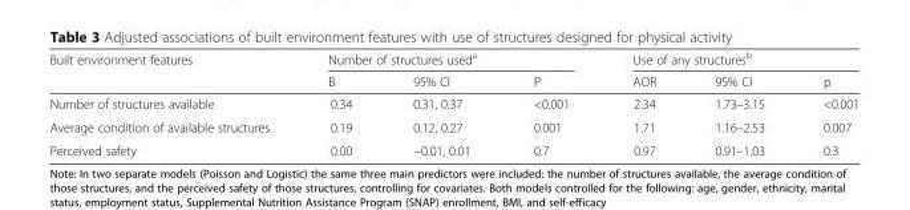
<table><thead><tr><td rowspan="2">Built environment features</td><td colspan="3">Number of structures used<sup>a</sup></td><td colspan="3">Use of any structures<sup>b</sup></td></tr><tr><td>B</td><td>95% CI</td><td>P</td><td>AOR</td><td>95% CI</td><td>p</td></tr></thead><tbody><tr><td>Number of structures available</td><td>0.34</td><td>0.31, 0.37</td><td>&lt;0.001</td><td>2.34</td><td>1.73–3.15</td><td>&lt;0.001</td></tr><tr><td>Average condition of available structures</td><td>0.19</td><td>0.12, 0.27</td><td>0.001</td><td>1.71</td><td>1.16–2.53</td><td>0.007</td></tr><tr><td>Perceived safety</td><td>0.00</td><td>−0.01, 0.01</td><td>0.7</td><td>0.97</td><td>0.91–1.03</td><td>0.3</td></tr></tbody></table>